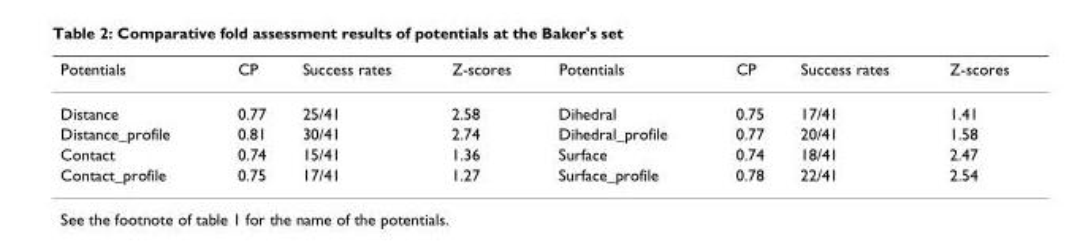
<table><thead><tr><td>Potentials</td><td>CP</td><td>Success rates</td><td>Z-scores</td><td>Potentials</td><td>CP</td><td>Success rates</td><td>Z-scores</td></tr></thead><tbody><tr><td>Distance</td><td>0.77</td><td>25/41</td><td>2.58</td><td>Dihedral</td><td>0.75</td><td>17/41</td><td>1.41</td></tr><tr><td>Distance_profile</td><td>0.81</td><td>30/41</td><td>2.74</td><td>Dihedral_profile</td><td>0.77</td><td>20/41</td><td>1.58</td></tr><tr><td>Contact</td><td>0.74</td><td>15/41</td><td>1.36</td><td>Surface</td><td>0.74</td><td>18/41</td><td>2.47</td></tr><tr><td>Contact_profile</td><td>0.75</td><td>17/41</td><td>1.27</td><td>Surface_profile</td><td>0.78</td><td>22/41</td><td>2.54</td></tr></tbody></table>